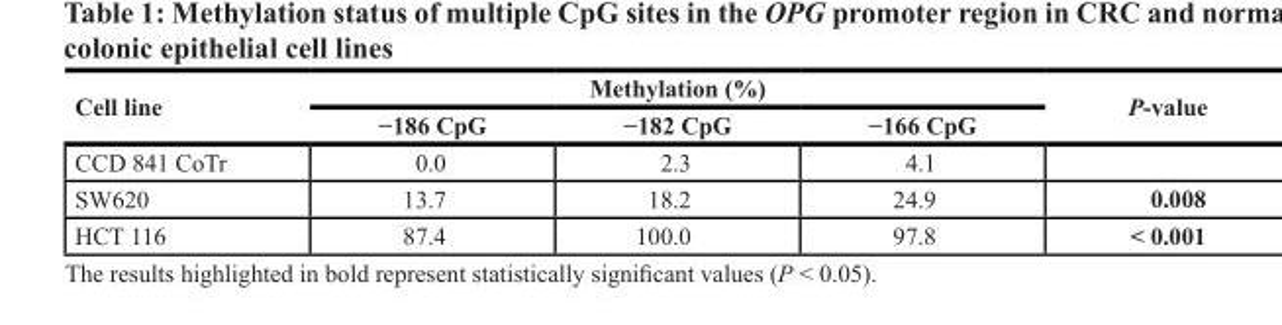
<table><thead><tr><td rowspan="2">Cell line</td><td colspan="3">Methylation (%)</td><td rowspan="2">P-value</td></tr><tr><td>−186 CpG</td><td>−182 CpG</td><td>−166 CpG</td></tr></thead><tbody><tr><td>CCD 841 CoTr</td><td>0.0</td><td>2.3</td><td>4.1</td><td></td></tr><tr><td>SW620</td><td>13.7</td><td>18.2</td><td>24.9</td><td>0.008</td></tr><tr><td>HCT 116</td><td>87.4</td><td>100.0</td><td>97.8</td><td>&lt; 0.001</td></tr></tbody></table>